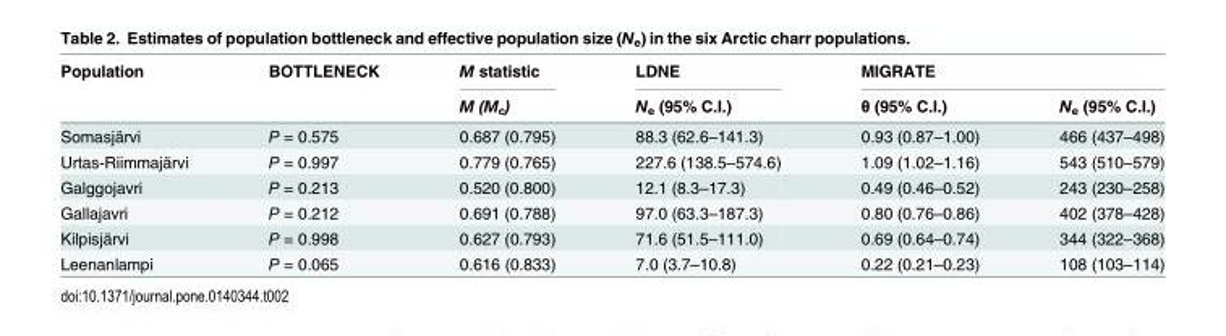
<table><thead><tr><td rowspan="2">Population</td><td rowspan="2">BOTTLENECK</td><td rowspan="2">M statistic M (M<sub>c</sub>)</td><td rowspan="2">LDNE N<sub>e</sub> (95% C.I.)</td><td colspan="2">MIGRATE</td></tr><tr><td>θ (95% C.I.)</td><td>N<sub>e</sub> (95% C.I.)</td></tr></thead><tbody><tr><td>Somasjärvi</td><td>P = 0.575</td><td>0.687 (0.795)</td><td>88.3 (62.6–141.3)</td><td>0.93 (0.87–1.00)</td><td>466 (437–498)</td></tr><tr><td>Urtas-Riimmajärvi</td><td>P = 0.997</td><td>0.779 (0.765)</td><td>227.6 (138.5–574.6)</td><td>1.09 (1.02–1.16)</td><td>543 (510–579)</td></tr><tr><td>Galggojavri</td><td>P = 0.213</td><td>0.520 (0.800)</td><td>12.1 (8.3–17.3)</td><td>0.49 (0.46–0.52)</td><td>243 (230–258)</td></tr><tr><td>Gallajavri</td><td>P = 0.212</td><td>0.691 (0.788)</td><td>97.0 (63.3–187.3)</td><td>0.80 (0.76–0.86)</td><td>402 (378–428)</td></tr><tr><td>Kilpisjärvi</td><td>P = 0.998</td><td>0.627 (0.793)</td><td>71.6 (51.5–111.0)</td><td>0.69 (0.64–0.74)</td><td>344 (322–368)</td></tr><tr><td>Leenanlampi</td><td>P = 0.065</td><td>0.616 (0.833)</td><td>7.0 (3.7–10.8)</td><td>0.22 (0.21–0.23)</td><td>108 (103–114)</td></tr></tbody></table>